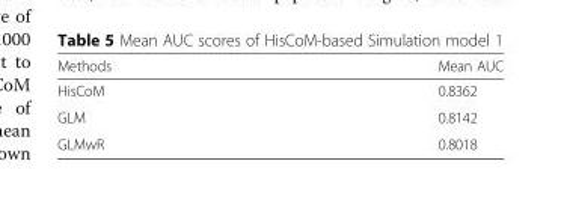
<table><thead><tr><td>Methods</td><td>Mean AUC</td></tr></thead><tbody><tr><td>HisCoM</td><td>0.8362</td></tr><tr><td>GLM</td><td>0.8142</td></tr><tr><td>GLMwR</td><td>0.8018</td></tr></tbody></table>